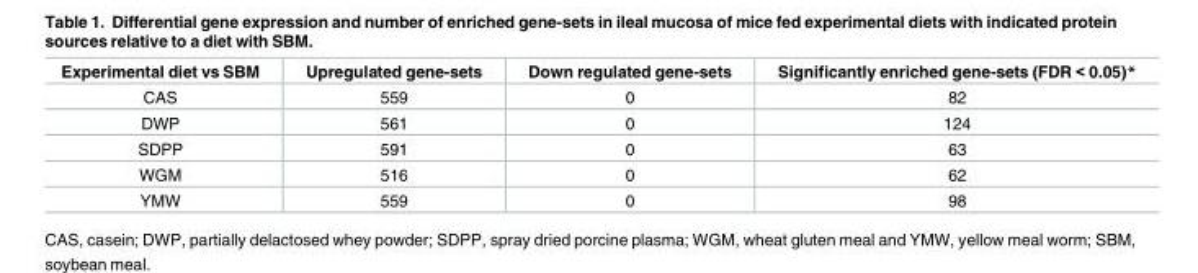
<table><thead><tr><td>Experimental diet vs SBM</td><td>Upregulated gene-sets</td><td>Down regulated gene-sets</td><td>Significantly enriched gene-sets (FDR &lt; 0.05)*</td></tr></thead><tbody><tr><td>CAS</td><td>559</td><td>0</td><td>82</td></tr><tr><td>DWP</td><td>561</td><td>0</td><td>124</td></tr><tr><td>SDPP</td><td>591</td><td>0</td><td>63</td></tr><tr><td>WGM</td><td>516</td><td>0</td><td>62</td></tr><tr><td>YMW</td><td>559</td><td>0</td><td>98</td></tr></tbody></table>